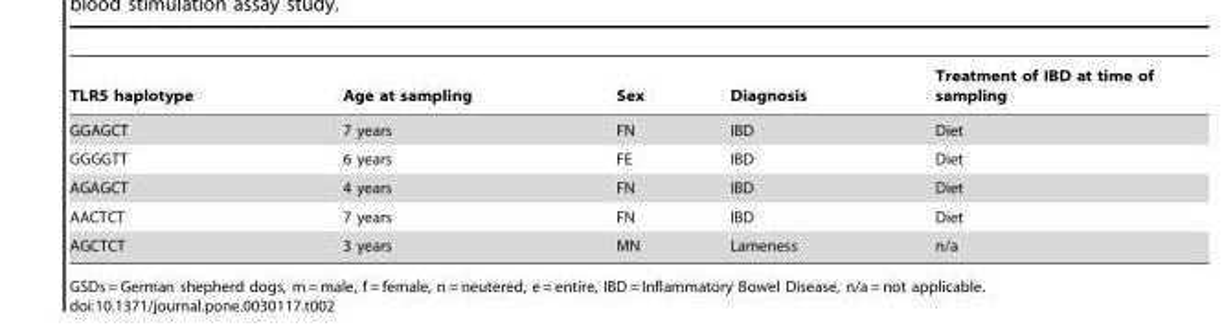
<table><thead><tr><td>TLR5 haplotype</td><td>Age at sampling</td><td>Sex</td><td>Diagnosis</td><td>Treatment of IBD at time of sampling</td></tr></thead><tbody><tr><td>GGAGCT</td><td>7 years</td><td>FN</td><td>IBD</td><td>Diet</td></tr><tr><td>GGGGTT</td><td>6 years</td><td>FE</td><td>IBD</td><td>Diet</td></tr><tr><td>AGAGCT</td><td>4 years</td><td>FN</td><td>IBD</td><td>Diet</td></tr><tr><td>AACTCT</td><td>7 years</td><td>FN</td><td>IBD</td><td>Diet</td></tr><tr><td>AGCTCT</td><td>3 years</td><td>MN</td><td>Lameness</td><td>n/a</td></tr></tbody></table>